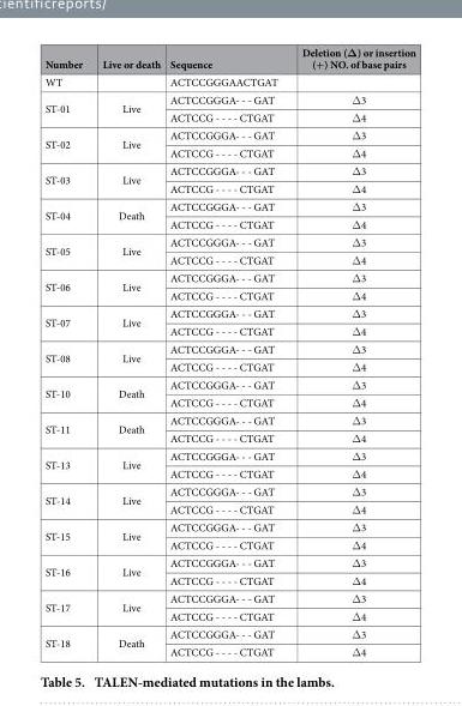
<table><thead><tr><td>Number</td><td>Live or death</td><td>Sequence</td><td>Deletion (Δ) or insertion (+) NO. of base pairs</td></tr></thead><tbody><tr><td>WT</td><td></td><td>ACTCCGGGAACTGAT</td><td></td></tr><tr><td rowspan="2">ST-01</td><td rowspan="2">Live</td><td>ACTCCGGGA- - - GAT</td><td>Δ 3</td></tr><tr><td>ACTCCG - - - - CTGAT</td><td>Δ 4</td></tr><tr><td rowspan="2">ST-02</td><td rowspan="2">Live</td><td>ACTCCGGGA- - - GAT</td><td>Δ 3</td></tr><tr><td>ACTCCG - - - - CTGAT</td><td>Δ 4</td></tr><tr><td rowspan="2">ST-03</td><td rowspan="2">Live</td><td>ACTCCGGGA- - - GAT</td><td>Δ 3</td></tr><tr><td>ACTCCG - - - - CTGAT</td><td>Δ 4</td></tr><tr><td rowspan="2">ST-04</td><td rowspan="2">Death</td><td>ACTCCGGGA- - - GAT</td><td>Δ 3</td></tr><tr><td>ACTCCG - - - - CTGAT</td><td>Δ 4</td></tr><tr><td rowspan="2">ST-05</td><td rowspan="2">Live</td><td>ACTCCGGGA- - - GAT</td><td>Δ 3</td></tr><tr><td>ACTCCG - - - - CTGAT</td><td>Δ 4</td></tr><tr><td rowspan="2">ST-06</td><td rowspan="2">Live</td><td>ACTCCGGGA- - - GAT</td><td>Δ 3</td></tr><tr><td>ACTCCG - - - - CTGAT</td><td>Δ 4</td></tr><tr><td rowspan="2">ST-07</td><td rowspan="2">Live</td><td>ACTCCGGGA- - - GAT</td><td>Δ 3</td></tr><tr><td>ACTCCG - - - - CTGAT</td><td>Δ 4</td></tr><tr><td rowspan="2">ST-08</td><td rowspan="2">Live</td><td>ACTCCGGGA- - - GAT</td><td>Δ 3</td></tr><tr><td>ACTCCG - - - - CTGAT</td><td>Δ 4</td></tr><tr><td rowspan="2">ST-10</td><td rowspan="2">Death</td><td>ACTCCGGGA- - - GAT</td><td>Δ 3</td></tr><tr><td>ACTCCG - - - - CTGAT</td><td>Δ 4</td></tr><tr><td rowspan="2">ST-11</td><td rowspan="2">Death</td><td>ACTCCGGGA- - - GAT</td><td>Δ 3</td></tr><tr><td>ACTCCG - - - - CTGAT</td><td>Δ 4</td></tr><tr><td rowspan="2">ST-13</td><td rowspan="2">Live</td><td>ACTCCGGGA- - - GAT</td><td>Δ 3</td></tr><tr><td>ACTCCG - - - - CTGAT</td><td>Δ 4</td></tr><tr><td rowspan="2">ST-14</td><td rowspan="2">Live</td><td>ACTCCGGGA- - - GAT</td><td>Δ 3</td></tr><tr><td>ACTCCG - - - - CTGAT</td><td>Δ 4</td></tr><tr><td rowspan="2">ST-15</td><td rowspan="2">Live</td><td>ACTCCGGGA- - - GAT</td><td>Δ 3</td></tr><tr><td>ACTCCG - - - - CTGAT</td><td>Δ 4</td></tr><tr><td rowspan="2">ST-16</td><td rowspan="2">Live</td><td>ACTCCGGGA- - - GAT</td><td>Δ 3</td></tr><tr><td>ACTCCG - - - - CTGAT</td><td>Δ 4</td></tr><tr><td rowspan="2">ST-17</td><td rowspan="2">Live</td><td>ACTCCGGGA- - - GAT</td><td>Δ 3</td></tr><tr><td>ACTCCG - - - - CTGAT</td><td>Δ 4</td></tr><tr><td rowspan="2">ST-18</td><td rowspan="2">Death</td><td>ACTCCGGGA- - - GAT</td><td>Δ 3</td></tr><tr><td>ACTCCG - - - - CTGAT</td><td>Δ 4</td></tr></tbody></table>